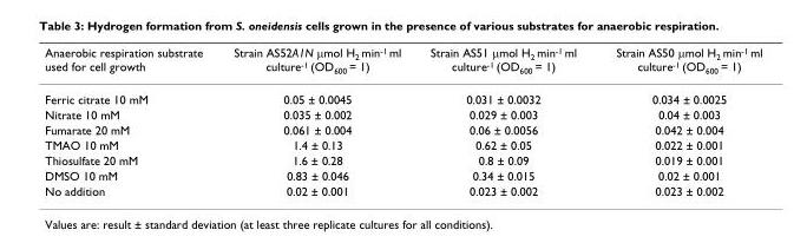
<table><thead><tr><td>Anaerobic respiration substrate used for cell growth</td><td>Strain AS52A1N μmol H<sub>2</sub> min<sup>-1</sup> ml culture<sup>-1</sup> (OD<sub>600</sub> = 1)</td><td>Strain AS51 μmol H<sub>2</sub> min<sup>-1</sup> ml culture<sup>-1</sup> (OD<sub>600</sub> = 1)</td><td>Strain AS50 μmol H<sub>2</sub> min<sup>-1</sup> ml culture<sup>-1</sup> (OD<sub>600</sub> = 1)</td></tr></thead><tbody><tr><td>Ferric citrate 10 mM</td><td>0.05 ± 0.0045</td><td>0.031 ± 0.0032</td><td>0.034 ± 0.0025</td></tr><tr><td>Nitrate 10 mM</td><td>0.035 ± 0.002</td><td>0.029 ± 0.003</td><td>0.04 ± 0.003</td></tr><tr><td>Fumarate 20 mM</td><td>0.061 ± 0.004</td><td>0.06 ± 0.0056</td><td>0.042 ± 0.004</td></tr><tr><td>TMAO 10 mM</td><td>1.4 ± 0.13</td><td>0.62 ± 0.05</td><td>0.022 ± 0.001</td></tr><tr><td>Thiosulfate 20 mM</td><td>1.6 ± 0.28</td><td>0.8 ± 0.09</td><td>0.019 ± 0.001</td></tr><tr><td>DMSO 10 mM</td><td>0.83 ± 0.046</td><td>0.34 ± 0.015</td><td>0.02 ± 0.001</td></tr><tr><td>No addition</td><td>0.02 ± 0.001</td><td>0.023 ± 0.002</td><td>0.023 ± 0.002</td></tr></tbody></table>